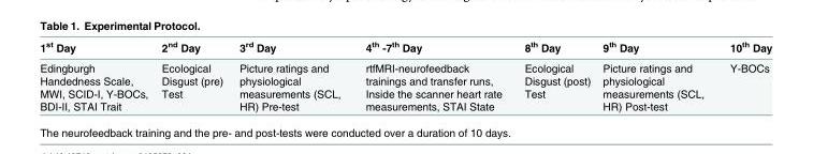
<table><thead><tr><td>1<sup>st</sup> Day</td><td>2<sup>nd</sup> Day</td><td>3<sup>rd</sup> Day</td><td>4<sup>th</sup> -7<sup>th</sup> Day</td><td>8<sup>th</sup> Day</td><td>9<sup>th</sup> Day</td><td>10<sup>th</sup> Day</td></tr></thead><tbody><tr><td>Edingburgh Handedness Scale, MWI, SCID-I, Y-BOCs, BDI-II, STAI Trait</td><td>Ecological Disgust (pre) Test</td><td>Picture ratings and physiological measurements (SCL, HR) Pre-test</td><td>rtfMRI-neurofeedback trainings and transfer runs, Inside the scanner heart rate measurements, STAI State</td><td>Ecological Disgust (post) Test</td><td>Picture ratings and physiological measurements (SCL, HR) Post-test</td><td>Y-BOCs</td></tr></tbody></table>